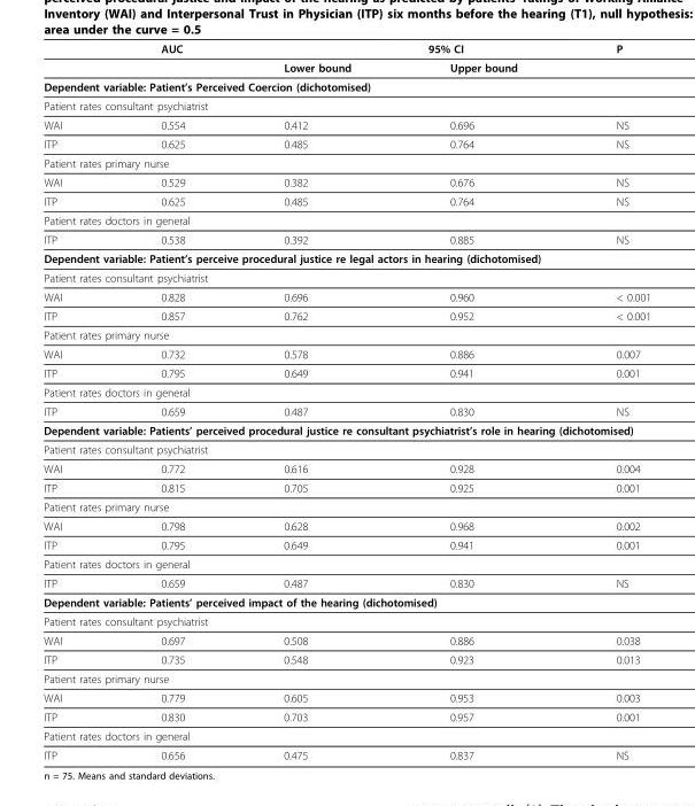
<table><thead><tr><td rowspan="2"></td><td rowspan="2">AUC</td><td colspan="2">95% CI</td><td rowspan="2">P</td></tr><tr><td>Lower bound</td><td>Upper bound</td></tr></thead><tbody><tr><td colspan="5">Dependent variable: Patient’s Perceived Coercion (dichotomised)</td></tr><tr><td colspan="5">Patient rates consultant psychiatrist</td></tr><tr><td>WAI</td><td>0.554</td><td>0.412</td><td>0.696</td><td>NS</td></tr><tr><td>ITP</td><td>0.625</td><td>0.485</td><td>0.764</td><td>NS</td></tr><tr><td colspan="5">Patient rates primary nurse</td></tr><tr><td>WAI</td><td>0.529</td><td>0.382</td><td>0.676</td><td>NS</td></tr><tr><td>ITP</td><td>0.625</td><td>0.485</td><td>0.764</td><td>NS</td></tr><tr><td colspan="5">Patient rates doctors in general</td></tr><tr><td>ITP</td><td>0.538</td><td>0.392</td><td>0.885</td><td>NS</td></tr><tr><td colspan="5">Dependent variable: Patient’s perceive procedural justice re legal actors in hearing (dichotomised)</td></tr><tr><td colspan="5">Patient rates consultant psychiatrist</td></tr><tr><td>WAI</td><td>0.828</td><td>0.696</td><td>0.960</td><td>&lt; 0.001</td></tr><tr><td>ITP</td><td>0.857</td><td>0.762</td><td>0.952</td><td>&lt; 0.001</td></tr><tr><td colspan="5">Patient rates primary nurse</td></tr><tr><td>WAI</td><td>0.732</td><td>0.578</td><td>0.886</td><td>0.007</td></tr><tr><td>ITP</td><td>0.795</td><td>0.649</td><td>0.941</td><td>0.001</td></tr><tr><td colspan="5">Patient rates doctors in general</td></tr><tr><td>ITP</td><td>0.659</td><td>0.487</td><td>0.830</td><td>NS</td></tr><tr><td colspan="5">Dependent variable: Patients’ perceived procedural justice re consultant psychiatrist’s role in hearing (dichotomised)</td></tr><tr><td colspan="5">Patient rates consultant psychiatrist</td></tr><tr><td>WAI</td><td>0.772</td><td>0.616</td><td>0.928</td><td>0.004</td></tr><tr><td>ITP</td><td>0.815</td><td>0.705</td><td>0.925</td><td>0.001</td></tr><tr><td colspan="5">Patient rates primary nurse</td></tr><tr><td>WAI</td><td>0.798</td><td>0.628</td><td>0.968</td><td>0.002</td></tr><tr><td>ITP</td><td>0.795</td><td>0.649</td><td>0.941</td><td>0.001</td></tr><tr><td colspan="5">Patient rates doctors in general</td></tr><tr><td>ITP</td><td>0.659</td><td>0.487</td><td>0.830</td><td>NS</td></tr><tr><td colspan="5">Dependent variable: Patients’ perceived impact of the hearing (dichotomised)</td></tr><tr><td colspan="5">Patient rates consultant psychiatrist</td></tr><tr><td>WAI</td><td>0.697</td><td>0.508</td><td>0.886</td><td>0.038</td></tr><tr><td>ITP</td><td>0.735</td><td>0.548</td><td>0.923</td><td>0.013</td></tr><tr><td colspan="5">Patient rates primary nurse</td></tr><tr><td>WAI</td><td>0.779</td><td>0.605</td><td>0.953</td><td>0.003</td></tr><tr><td>ITP</td><td>0.830</td><td>0.703</td><td>0.957</td><td>0.001</td></tr><tr><td colspan="5">Patient rates doctors in general</td></tr><tr><td>ITP</td><td>0.656</td><td>0.475</td><td>0.837</td><td>NS</td></tr></tbody></table>